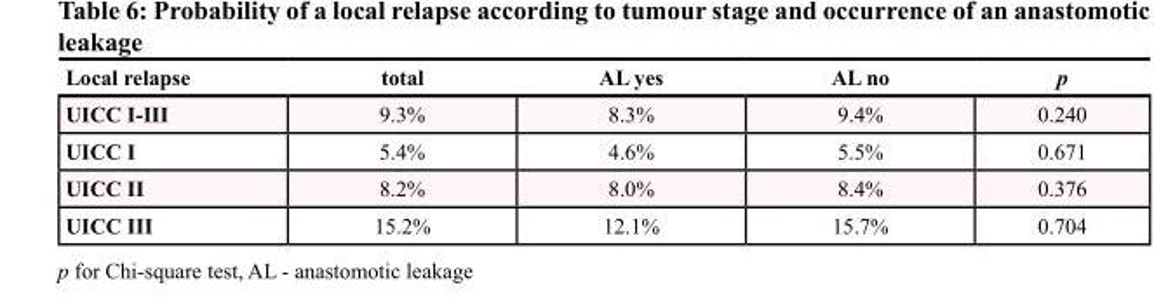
<table><thead><tr><td>Local relapse</td><td>total</td><td>AL yes</td><td>AL no</td><td>p</td></tr></thead><tbody><tr><td>UICC I-III</td><td>9.3%</td><td>8.3%</td><td>9.4%</td><td>0.240</td></tr><tr><td>UICC I</td><td>5.4%</td><td>4.6%</td><td>5.5%</td><td>0.671</td></tr><tr><td>UICC II</td><td>8.2%</td><td>8.0%</td><td>8.4%</td><td>0.376</td></tr><tr><td>UICC III</td><td>15.2%</td><td>12.1%</td><td>15.7%</td><td>0.704</td></tr></tbody></table>